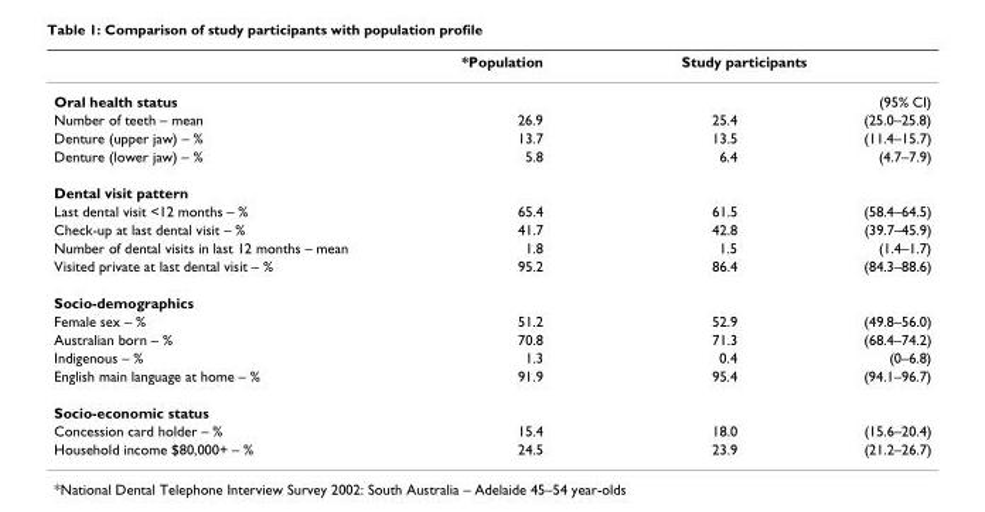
<table><thead><tr><td rowspan="2">Oral health status</td><td rowspan="2">*Population</td><td colspan="2">Study participants</td></tr><tr><td></td><td>(95% CI)</td></tr></thead><tbody><tr><td>Number of teeth – mean</td><td>26.9</td><td>25.4</td><td>(25.0–25.8)</td></tr><tr><td>Denture (upper jaw) – %</td><td>13.7</td><td>13.5</td><td>(11.4–15.7)</td></tr><tr><td>Denture (lower jaw) – %</td><td>5.8</td><td>6.4</td><td>(4.7–7.9)</td></tr><tr><td colspan="4">Dental visit pattern</td></tr><tr><td>Last dental visit &lt;12 months – %</td><td>65.4</td><td>61.5</td><td>(58.4–64.5)</td></tr><tr><td>Check-up at last dental visit – %</td><td>41.7</td><td>42.8</td><td>(39.7–45.9)</td></tr><tr><td>Number of dental visits in last 12 months – mean</td><td>1.8</td><td>1.5</td><td>(1.4–1.7)</td></tr><tr><td>Visited private at last dental visit – %</td><td>95.2</td><td>86.4</td><td>(84.3–88.6)</td></tr><tr><td colspan="4">Socio-demographics</td></tr><tr><td>Female sex – %</td><td>51.2</td><td>52.9</td><td>(49.8–56.0)</td></tr><tr><td>Australian born – %</td><td>70.8</td><td>71.3</td><td>(68.4–74.2)</td></tr><tr><td>Indigenous – %</td><td>1.3</td><td>0.4</td><td>(0–6.8)</td></tr><tr><td>English main language at home – %</td><td>91.9</td><td>95.4</td><td>(94.1–96.7)</td></tr><tr><td colspan="4">Socio-economic status</td></tr><tr><td>Concession card holder – %</td><td>15.4</td><td>18.0</td><td>(15.6–20.4)</td></tr><tr><td>Household income $80,000+ – %</td><td>24.5</td><td>23.9</td><td>(21.2–26.7)</td></tr></tbody></table>